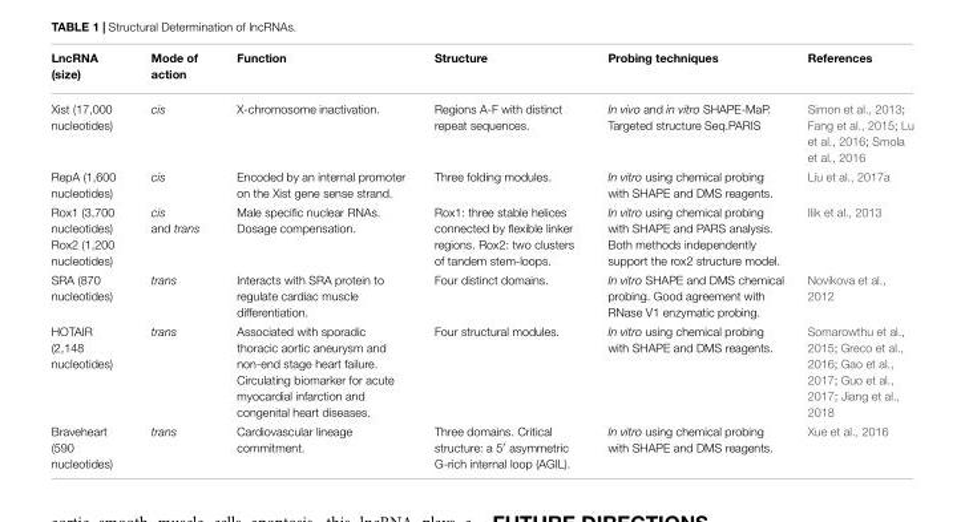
<table><thead><tr><td>LncRNA (size)</td><td>Mode of action</td><td>Function</td><td>Structure</td><td>Probing techniques</td><td>References</td></tr></thead><tbody><tr><td>Xist (17,000 nucleotides)</td><td>cis</td><td>X-chromosome inactivation.</td><td>Regions A-F with distinct repeat sequences.</td><td>In vivo and in vitro SHAPE-MaP. Targeted structure Seq.PARIS</td><td>Simon et al., 2013; Fang et al., 2015; Lu et al., 2016; Smola et al., 2016</td></tr><tr><td>RepA (1,600 nucleotides)</td><td>cis</td><td>Encoded by an internal promoter on the Xist gene sense strand.</td><td>Three folding modules.</td><td>In vitro using chemical probing with SHAPE and DMS reagents.</td><td>Liu et al., 2017a</td></tr><tr><td>Rox1 (3,700 nucleotides) Rox2 (1,200 nucleotides)</td><td>cis and trans</td><td>Male specific nuclear RNAs. Dosage compensation.</td><td>Rox1: three stable helices connected by flexible linker regions. Rox2: two clusters of tandem stem-loops.</td><td>In vitro using chemical probing with SHAPE and PARS analysis. Both methods independently support the rox2 structure model.</td><td>Ilik et al., 2013</td></tr><tr><td>SRA (870 nucleotides)</td><td>trans</td><td>Interacts with SRA protein to regulate cardiac muscle differentiation.</td><td>Four distinct domains.</td><td>In vitro SHAPE and DMS chemical probing. Good agreement with RNase V1 enzymatic probing.</td><td>Novikova et al., 2012</td></tr><tr><td>HOTAIR (2,148 nucleotides)</td><td>trans</td><td>Associated with sporadic thoracic aortic aneurysm and non-end stage heart failure. Circulating biomarker for acute myocardial infarction and congenital heart diseases.</td><td>Four structural modules.</td><td>In vitro using chemical probing with SHAPE and DMS reagents.</td><td>Somarowthu et al., 2015; Greco et al., 2016; Gao et al., 2017; Guo et al., 2017; Jiang et al., 2018</td></tr><tr><td>Braveheart (590 nucleotides)</td><td>trans</td><td>Cardiovascular lineage commitment.</td><td>Three domains. Critical structure: a 5′ asymmetric G-rich internal loop (AGIL).</td><td>In vitro using chemical probing with SHAPE and DMS reagents.</td><td>Xue et al., 2016</td></tr></tbody></table>